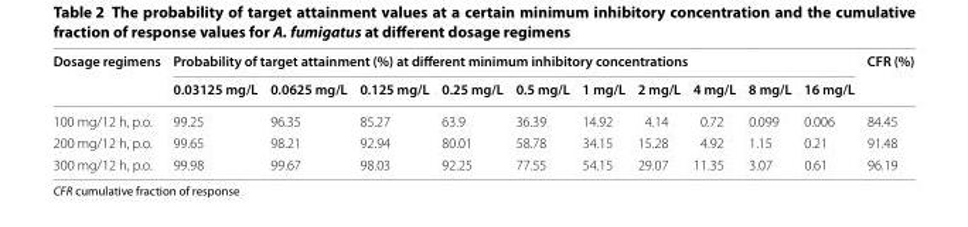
<table><thead><tr><td rowspan="2">Dosage regimens</td><td colspan="10">Probability of target attainment (%) at different minimum inhibitory concentrations</td><td rowspan="2">CFR (%)</td></tr><tr><td>0.03125 mg/L</td><td>0.0625 mg/L</td><td>0.125 mg/L</td><td>0.25 mg/L</td><td>0.5 mg/L</td><td>1 mg/L</td><td>2 mg/L</td><td>4 mg/L</td><td>8 mg/L</td><td>16 mg/L</td></tr></thead><tbody><tr><td>100 mg/12 h, p.o.</td><td>99.25</td><td>96.35</td><td>85.27</td><td>63.9</td><td>36.39</td><td>14.92</td><td>4.14</td><td>0.72</td><td>0.099</td><td>0.006</td><td>84.45</td></tr><tr><td>200 mg/12 h, p.o.</td><td>99.65</td><td>98.21</td><td>92.94</td><td>80.01</td><td>58.78</td><td>34.15</td><td>15.28</td><td>4.92</td><td>1.15</td><td>0.21</td><td>91.48</td></tr><tr><td>300 mg/12 h, p.o.</td><td>99.98</td><td>99.67</td><td>98.03</td><td>92.25</td><td>77.55</td><td>54.15</td><td>29.07</td><td>11.35</td><td>3.07</td><td>0.61</td><td>96.19</td></tr></tbody></table>